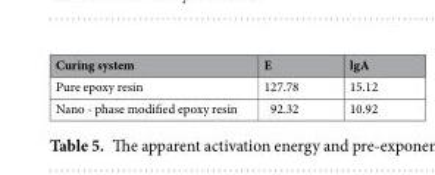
<table><thead><tr><td>Curing system</td><td>E</td><td>lgA</td></tr></thead><tbody><tr><td>Pure epoxy resin</td><td>127.78</td><td>15.12</td></tr><tr><td>Nano - phase modified epoxy resin</td><td>92.32</td><td>10.92</td></tr></tbody></table>